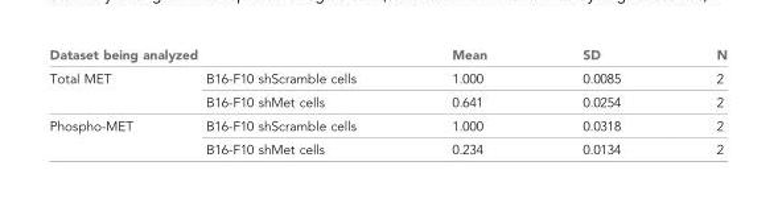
<table><thead><tr><td>Dataset being analyzed</td><td></td><td>Mean</td><td>SD</td><td>N</td></tr></thead><tbody><tr><td rowspan="2">Total MET</td><td>B16-F10 shScramble cells</td><td>1.000</td><td>0.0085</td><td>2</td></tr><tr><td>B16-F10 shMet cells</td><td>0.641</td><td>0.0254</td><td>2</td></tr><tr><td rowspan="2">Phospho-MET</td><td>B16-F10 shScramble cells</td><td>1.000</td><td>0.0318</td><td>2</td></tr><tr><td>B16-F10 shMet cells</td><td>0.234</td><td>0.0134</td><td>2</td></tr></tbody></table>